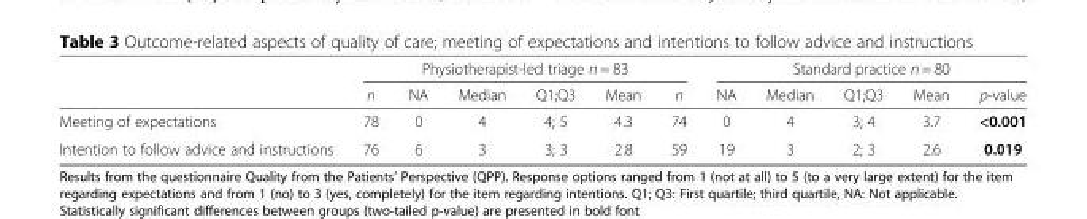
<table><thead><tr><td rowspan="2"></td><td colspan="6">Physiotherapist-led triage n = 83</td><td colspan="5">Standard practice n = 80</td></tr><tr><td>n</td><td>NA</td><td>Median</td><td>Q1;Q3</td><td>Mean</td><td>n</td><td>NA</td><td>Median</td><td>Q1;Q3</td><td>Mean</td><td>p-value</td></tr></thead><tbody><tr><td>Meeting of expectations</td><td>78</td><td>0</td><td>4</td><td>4; 5</td><td>4.3</td><td>74</td><td>0</td><td>4</td><td>3; 4</td><td>3.7</td><td>&lt;0.001</td></tr><tr><td>Intention to follow advice and instructions</td><td>76</td><td>6</td><td>3</td><td>3; 3</td><td>2.8</td><td>59</td><td>19</td><td>3</td><td>2; 3</td><td>2.6</td><td>0.019</td></tr></tbody></table>